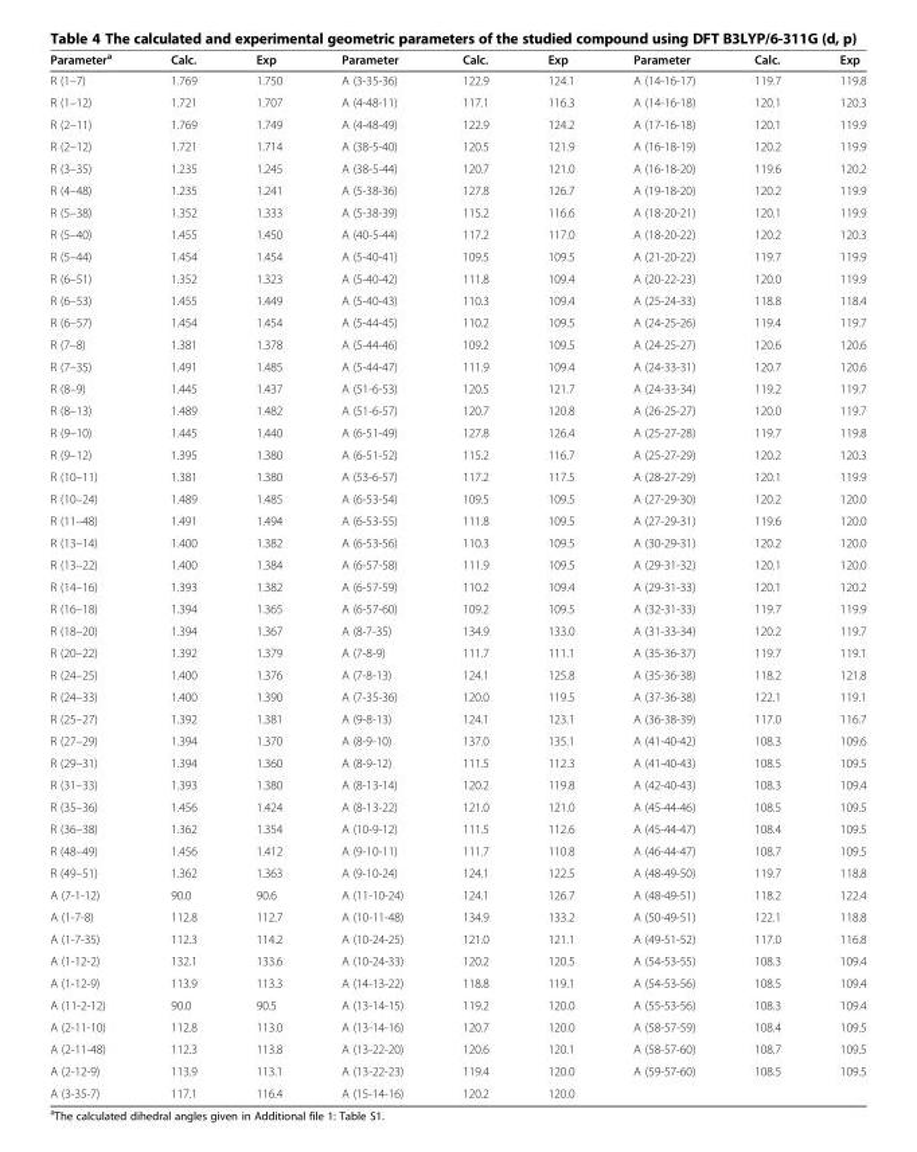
<table><thead><tr><td>Parameter<sup>a</sup></td><td>Calc.</td><td>Exp</td><td>Parameter</td><td>Calc.</td><td>Exp</td><td>Parameter</td><td>Calc.</td><td>Exp</td></tr></thead><tbody><tr><td>R (1–7)</td><td>1.769</td><td>1.750</td><td>A (3-35-36)</td><td>122.9</td><td>124.1</td><td>A (14-16-17)</td><td>119.7</td><td>119.8</td></tr><tr><td>R (1–12)</td><td>1.721</td><td>1.707</td><td>A (4-48-11)</td><td>117.1</td><td>116.3</td><td>A (14-16-18)</td><td>120.1</td><td>120.3</td></tr><tr><td>R (2–11)</td><td>1.769</td><td>1.749</td><td>A (4-48-49)</td><td>122.9</td><td>124.2</td><td>A (17-16-18)</td><td>120.1</td><td>119.9</td></tr><tr><td>R (2–12)</td><td>1.721</td><td>1.714</td><td>A (38-5-40)</td><td>120.5</td><td>121.9</td><td>A (16-18-19)</td><td>120.2</td><td>119.9</td></tr><tr><td>R (3–35)</td><td>1.235</td><td>1.245</td><td>A (38-5-44)</td><td>120.7</td><td>121.0</td><td>A (16-18-20)</td><td>119.6</td><td>120.2</td></tr><tr><td>R (4–48)</td><td>1.235</td><td>1.241</td><td>A (5-38-36)</td><td>127.8</td><td>126.7</td><td>A (19-18-20)</td><td>120.2</td><td>119.9</td></tr><tr><td>R (5–38)</td><td>1.352</td><td>1.333</td><td>A (5-38-39)</td><td>115.2</td><td>116.6</td><td>A (18-20-21)</td><td>120.1</td><td>119.9</td></tr><tr><td>R (5–40)</td><td>1.455</td><td>1.450</td><td>A (40-5-44)</td><td>117.2</td><td>117.0</td><td>A (18-20-22)</td><td>120.2</td><td>120.3</td></tr><tr><td>R (5–44)</td><td>1.454</td><td>1.454</td><td>A (5-40-41)</td><td>109.5</td><td>109.5</td><td>A (21-20-22)</td><td>119.7</td><td>119.9</td></tr><tr><td>R (6–51)</td><td>1.352</td><td>1.323</td><td>A (5-40-42)</td><td>111.8</td><td>109.4</td><td>A (20-22-23)</td><td>120.0</td><td>119.9</td></tr><tr><td>R (6–53)</td><td>1.455</td><td>1.449</td><td>A (5-40-43)</td><td>110.3</td><td>109.4</td><td>A (25-24-33)</td><td>118.8</td><td>118.4</td></tr><tr><td>R (6–57)</td><td>1.454</td><td>1.454</td><td>A (5-44-45)</td><td>110.2</td><td>109.5</td><td>A (24-25-26)</td><td>119.4</td><td>119.7</td></tr><tr><td>R (7–8)</td><td>1.381</td><td>1.378</td><td>A (5-44-46)</td><td>109.2</td><td>109.5</td><td>A (24-25-27)</td><td>120.6</td><td>120.6</td></tr><tr><td>R (7–35)</td><td>1.491</td><td>1.485</td><td>A (5-44-47)</td><td>111.9</td><td>109.4</td><td>A (24-33-31)</td><td>120.7</td><td>120.6</td></tr><tr><td>R (8–9)</td><td>1.445</td><td>1.437</td><td>A (51-6-53)</td><td>120.5</td><td>121.7</td><td>A (24-33-34)</td><td>119.2</td><td>119.7</td></tr><tr><td>R (8–13)</td><td>1.489</td><td>1.482</td><td>A (51-6-57)</td><td>120.7</td><td>120.8</td><td>A (26-25-27)</td><td>120.0</td><td>119.7</td></tr><tr><td>R (9–10)</td><td>1.445</td><td>1.440</td><td>A (6-51-49)</td><td>127.8</td><td>126.4</td><td>A (25-27-28)</td><td>119.7</td><td>119.8</td></tr><tr><td>R (9–12)</td><td>1.395</td><td>1.380</td><td>A (6-51-52)</td><td>115.2</td><td>116.7</td><td>A (25-27-29)</td><td>120.2</td><td>120.3</td></tr><tr><td>R (10–11)</td><td>1.381</td><td>1.380</td><td>A (53-6-57)</td><td>117.2</td><td>117.5</td><td>A (28-27-29)</td><td>120.1</td><td>119.9</td></tr><tr><td>R (10–24)</td><td>1.489</td><td>1.485</td><td>A (6-53-54)</td><td>109.5</td><td>109.5</td><td>A (27-29-30)</td><td>120.2</td><td>120.0</td></tr><tr><td>R (11–48)</td><td>1.491</td><td>1.494</td><td>A (6-53-55)</td><td>111.8</td><td>109.5</td><td>A (27-29-31)</td><td>119.6</td><td>120.0</td></tr><tr><td>R (13–14)</td><td>1.400</td><td>1.382</td><td>A (6-53-56)</td><td>110.3</td><td>109.5</td><td>A (30-29-31)</td><td>120.2</td><td>120.0</td></tr><tr><td>R (13–22)</td><td>1.400</td><td>1.384</td><td>A (6-57-58)</td><td>111.9</td><td>109.5</td><td>A (29-31-32)</td><td>120.1</td><td>120.0</td></tr><tr><td>R (14–16)</td><td>1.393</td><td>1.382</td><td>A (6-57-59)</td><td>110.2</td><td>109.4</td><td>A (29-31-33)</td><td>120.1</td><td>120.2</td></tr><tr><td>R (16–18)</td><td>1.394</td><td>1.365</td><td>A (6-57-60)</td><td>109.2</td><td>109.5</td><td>A (32-31-33)</td><td>119.7</td><td>119.9</td></tr><tr><td>R (18–20)</td><td>1.394</td><td>1.367</td><td>A (8-7-35)</td><td>134.9</td><td>133.0</td><td>A (31-33-34)</td><td>120.2</td><td>119.7</td></tr><tr><td>R (20–22)</td><td>1.392</td><td>1.379</td><td>A (7-8-9)</td><td>111.7</td><td>111.1</td><td>A (35-36-37)</td><td>119.7</td><td>119.1</td></tr><tr><td>R (24–25)</td><td>1.400</td><td>1.376</td><td>A (7-8-13)</td><td>124.1</td><td>125.8</td><td>A (35-36-38)</td><td>118.2</td><td>121.8</td></tr><tr><td>R (24–33)</td><td>1.400</td><td>1.390</td><td>A (7-35-36)</td><td>120.0</td><td>119.5</td><td>A (37-36-38)</td><td>122.1</td><td>119.1</td></tr><tr><td>R (25–27)</td><td>1.392</td><td>1.381</td><td>A (9-8-13)</td><td>124.1</td><td>123.1</td><td>A (36-38-39)</td><td>117.0</td><td>116.7</td></tr><tr><td>R (27–29)</td><td>1.394</td><td>1.370</td><td>A (8-9-10)</td><td>137.0</td><td>135.1</td><td>A (41-40-42)</td><td>108.3</td><td>109.6</td></tr><tr><td>R (29–31)</td><td>1.394</td><td>1.360</td><td>A (8-9-12)</td><td>111.5</td><td>112.3</td><td>A (41-40-43)</td><td>108.5</td><td>109.5</td></tr><tr><td>R (31–33)</td><td>1.393</td><td>1.380</td><td>A (8-13-14)</td><td>120.2</td><td>119.8</td><td>A (42-40-43)</td><td>108.3</td><td>109.4</td></tr><tr><td>R (35–36)</td><td>1.456</td><td>1.424</td><td>A (8-13-22)</td><td>121.0</td><td>121.0</td><td>A (45-44-46)</td><td>108.5</td><td>109.5</td></tr><tr><td>R (36–38)</td><td>1.362</td><td>1.354</td><td>A (10-9-12)</td><td>111.5</td><td>112.6</td><td>A (45-44-47)</td><td>108.4</td><td>109.5</td></tr><tr><td>R (48–49)</td><td>1.456</td><td>1.412</td><td>A (9-10-11)</td><td>111.7</td><td>110.8</td><td>A (46-44-47)</td><td>108.7</td><td>109.5</td></tr><tr><td>R (49–51)</td><td>1.362</td><td>1.363</td><td>A (9-10-24)</td><td>124.1</td><td>122.5</td><td>A (48-49-50)</td><td>119.7</td><td>118.8</td></tr><tr><td>A (7-1-12)</td><td>90.0</td><td>90.6</td><td>A (11-10-24)</td><td>124.1</td><td>126.7</td><td>A (48-49-51)</td><td>118.2</td><td>122.4</td></tr><tr><td>A (1-7-8)</td><td>112.8</td><td>112.7</td><td>A (10-11-48)</td><td>134.9</td><td>133.2</td><td>A (50-49-51)</td><td>122.1</td><td>118.8</td></tr><tr><td>A (1-7-35)</td><td>112.3</td><td>114.2</td><td>A (10-24-25)</td><td>121.0</td><td>121.1</td><td>A (49-51-52)</td><td>117.0</td><td>116.8</td></tr><tr><td>A (1-12-2)</td><td>132.1</td><td>133.6</td><td>A (10-24-33)</td><td>120.2</td><td>120.5</td><td>A (54-53-55)</td><td>108.3</td><td>109.4</td></tr><tr><td>A (1-12-9)</td><td>113.9</td><td>113.3</td><td>A (14-13-22)</td><td>118.8</td><td>119.1</td><td>A (54-53-56)</td><td>108.5</td><td>109.4</td></tr><tr><td>A (11-2-12)</td><td>90.0</td><td>90.5</td><td>A (13-14-15)</td><td>119.2</td><td>120.0</td><td>A (55-53-56)</td><td>108.3</td><td>109.4</td></tr><tr><td>A (2-11-10)</td><td>112.8</td><td>113.0</td><td>A (13-14-16)</td><td>120.7</td><td>120.0</td><td>A (58-57-59)</td><td>108.4</td><td>109.5</td></tr><tr><td>A (2-11-48)</td><td>112.3</td><td>113.8</td><td>A (13-22-20)</td><td>120.6</td><td>120.1</td><td>A (58-57-60)</td><td>108.7</td><td>109.5</td></tr><tr><td>A (2-12-9)</td><td>113.9</td><td>113.1</td><td>A (13-22-23)</td><td>119.4</td><td>120.0</td><td>A (59-57-60)</td><td>108.5</td><td>109.5</td></tr><tr><td>A (3-35-7)</td><td>117.1</td><td>116.4</td><td>A (15-14-16)</td><td>120.2</td><td>120.0</td><td></td><td></td><td></td></tr></tbody></table>